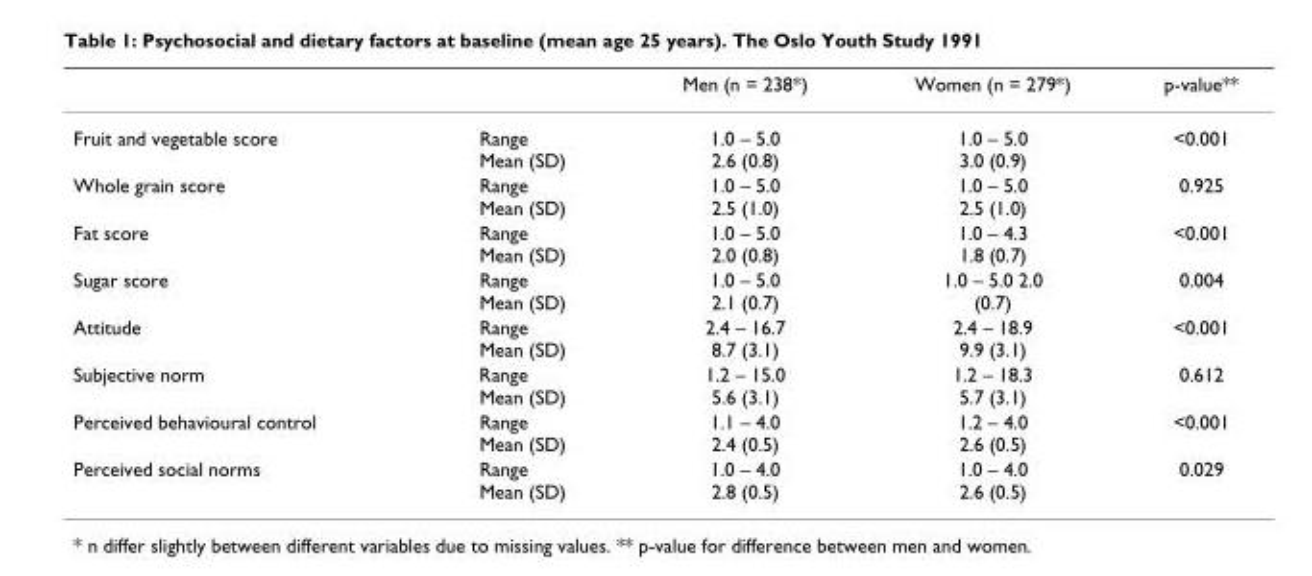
<table><thead><tr><td></td><td></td><td>Men (n = 238*)</td><td>Women (n = 279*)</td><td>p-value**</td></tr></thead><tbody><tr><td>Fruit and vegetable score</td><td>Range Mean (SD)</td><td>1.0 – 5.0 2.6 (0.8)</td><td>1.0 – 5.0 3.0 (0.9)</td><td>&lt;0.001</td></tr><tr><td>Whole grain score</td><td>Range Mean (SD)</td><td>1.0 – 5.0 2.5 (1.0)</td><td>1.0 – 5.0 2.5 (1.0)</td><td>0.925</td></tr><tr><td>Fat score</td><td>Range Mean (SD)</td><td>1.0 – 5.0 2.0 (0.8)</td><td>1.0 – 4.3 1.8 (0.7)</td><td>&lt;0.001</td></tr><tr><td>Sugar score</td><td>Range Mean (SD)</td><td>1.0 – 5.0 2.1 (0.7)</td><td>1.0 – 5.0 2.0 (0.7)</td><td>0.004</td></tr><tr><td>Attitude</td><td>Range Mean (SD)</td><td>2.4 – 16.7 8.7 (3.1)</td><td>2.4 – 18.9 9.9 (3.1)</td><td>&lt;0.001</td></tr><tr><td>Subjective norm</td><td>Range Mean (SD)</td><td>1.2 – 15.0 5.6 (3.1)</td><td>1.2 – 18.3 5.7 (3.1)</td><td>0.612</td></tr><tr><td>Perceived behavioural control</td><td>Range Mean (SD)</td><td>1.1 – 4.0 2.4 (0.5)</td><td>1.2 – 4.0 2.6 (0.5)</td><td>&lt;0.001</td></tr><tr><td>Perceived social norms</td><td>Range Mean (SD)</td><td>1.0 – 4.0 2.8 (0.5)</td><td>1.0 – 4.0 2.6 (0.5)</td><td>0.029</td></tr></tbody></table>